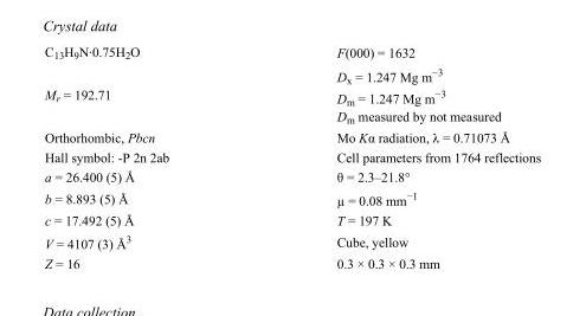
<table><tbody><tr><td>C<sub>13</sub>H<sub>9</sub>N·0.75H<sub>2</sub>O</td><td>F(000) = 1632</td></tr><tr><td>M<sub>r</sub> = 192.71</td><td>D<sub>x</sub> = 1.247 Mg m<sup>−3</sup> D<sub>m</sub> = 1.247 Mg m<sup>−3</sup> D<sub>m</sub> measured by not measured</td></tr><tr><td>Orthorhombic, Pbcn</td><td>Mo Kα radiation, λ = 0.71073 Å</td></tr><tr><td>Hall symbol: -P 2n 2ab</td><td>Cell parameters from 1764 reflections</td></tr><tr><td>a = 26.400 (5) Å</td><td>θ = 2.3–21.8°</td></tr><tr><td>b = 8.893 (5) Å</td><td>µ = 0.08 mm<sup>−1</sup></td></tr><tr><td>c = 17.492 (5) Å</td><td>T = 197 K</td></tr><tr><td>V = 4107 (3) Å<sup>3</sup></td><td>Cube, yellow</td></tr><tr><td>Z = 16</td><td>0.3 × 0.3 × 0.3 mm</td></tr></tbody></table>